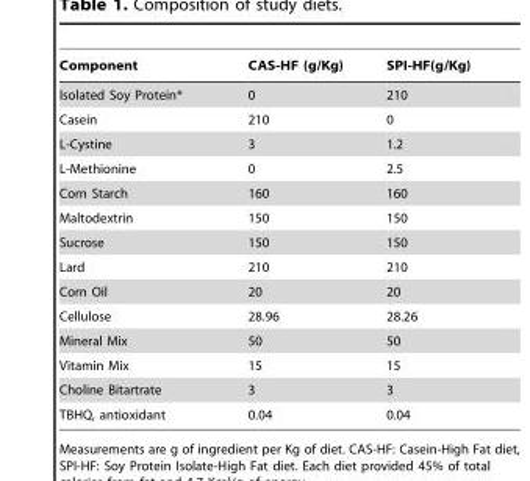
<table><thead><tr><td>Component</td><td>CAS-HF (g/Kg)</td><td>SPI-HF(g/Kg)</td></tr></thead><tbody><tr><td>Isolated Soy Protein*</td><td>0</td><td>210</td></tr><tr><td>Casein</td><td>210</td><td>0</td></tr><tr><td>L-Cystine</td><td>3</td><td>1.2</td></tr><tr><td>L-Methionine</td><td>0</td><td>2.5</td></tr><tr><td>Corn Starch</td><td>160</td><td>160</td></tr><tr><td>Maltodextrin</td><td>150</td><td>150</td></tr><tr><td>Sucrose</td><td>150</td><td>150</td></tr><tr><td>Lard</td><td>210</td><td>210</td></tr><tr><td>Corn Oil</td><td>20</td><td>20</td></tr><tr><td>Cellulose</td><td>28.96</td><td>28.26</td></tr><tr><td>Mineral Mix</td><td>50</td><td>50</td></tr><tr><td>Vitamin Mix</td><td>15</td><td>15</td></tr><tr><td>Choline Bitartrate</td><td>3</td><td>3</td></tr><tr><td>TBHQ, antioxidant</td><td>0.04</td><td>0.04</td></tr></tbody></table>